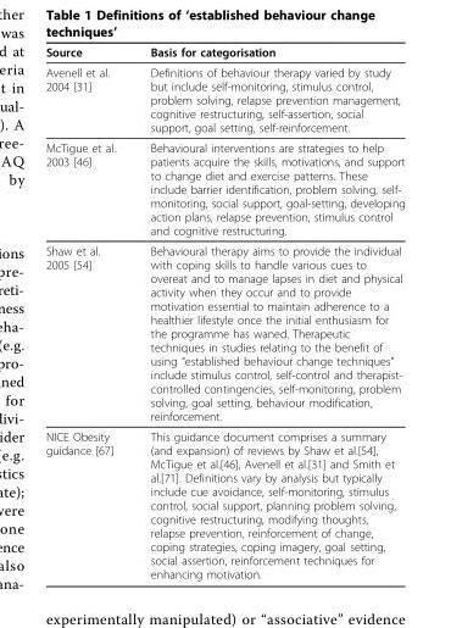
<table><thead><tr><td>Source</td><td>Basis for categorisation</td></tr></thead><tbody><tr><td>Avenell et al. 2004 [31]</td><td>Definitions of behaviour therapy varied by study but include self-monitoring, stimulus control, problem solving, relapse prevention management, cognitive restructuring, self-assertion, social support, goal setting, self-reinforcement.</td></tr><tr><td>McTigue et al. 2003 [46]</td><td>Behavioural interventions are strategies to help patients acquire the skills, motivations, and support to change diet and exercise patterns. These include barrier identification, problem solving, self- monitoring, social support, goal-setting, developing action plans, relapse prevention, stimulus control and cognitive restructuring.</td></tr><tr><td>Shaw et al. 2005 [54]</td><td>Behavioural therapy aims to provide the individual with coping skills to handle various cues to overeat and to manage lapses in diet and physical activity when they occur and to provide motivation essential to maintain adherence to a healthier lifestyle once the initial enthusiasm for the programme has waned. Therapeutic techniques in studies relating to the benefit of using “established behaviour change techniques” include stimulus control, self-control and therapist- controlled contingencies, self-monitoring, problem solving, goal setting, behaviour modification, reinforcement.</td></tr><tr><td>NICE Obesity guidance [67]</td><td>This guidance document comprises a summary (and expansion) of reviews by Shaw et al.[54], McTigue et al.[46], Avenell et al.[31] and Smith et al.[71]. Definitions vary by analysis but typically include cue avoidance, self-monitoring, stimulus control, social support, planning problem solving, cognitive restructuring, modifying thoughts, relapse prevention, reinforcement of change, coping strategies, coping imagery, goal setting, social assertion, reinforcement techniques for enhancing motivation.</td></tr></tbody></table>